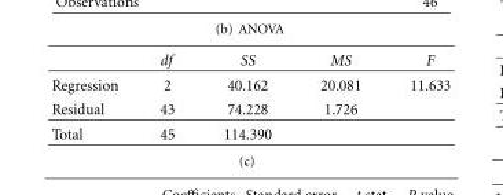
<table><thead><tr><td></td><td>df</td><td>SS</td><td>MS</td><td>F</td></tr></thead><tbody><tr><td>Regression</td><td>2</td><td>40.162</td><td>20.081</td><td>11.633</td></tr><tr><td>Residual</td><td>43</td><td>74.228</td><td>1.726</td><td></td></tr><tr><td>Total</td><td>45</td><td>114.390</td><td></td><td></td></tr></tbody></table>